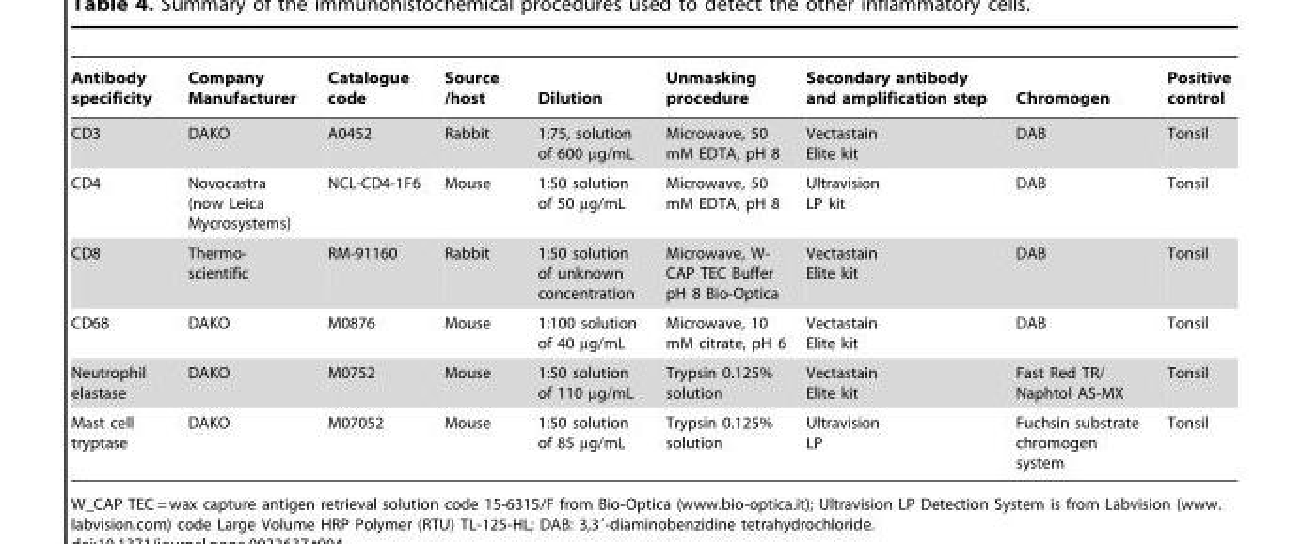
<table><thead><tr><td>Antibody specificity</td><td>Company Manufacturer</td><td>Catalogue code</td><td>Source /host</td><td>Dilution</td><td>Unmasking procedure</td><td>Secondary antibody and amplification step</td><td>Chromogen</td><td>Positive control</td></tr></thead><tbody><tr><td>CD3</td><td>DAKO</td><td>A0452</td><td>Rabbit</td><td>1:75, solution of 600 µg/mL</td><td>Microwave, 50 mM EDTA, pH 8</td><td>Vectastain Elite kit</td><td>DAB</td><td>Tonsil</td></tr><tr><td>CD4</td><td>Novocastra (now Leica Mycrosystems)</td><td>NCL-CD4-1F6</td><td>Mouse</td><td>1:50 solution of 50 µg/mL</td><td>Microwave, 50 mM EDTA, pH 8</td><td>Ultravision LP kit</td><td>DAB</td><td>Tonsil</td></tr><tr><td>CD8</td><td>Thermo- scientific</td><td>RM-91160</td><td>Rabbit</td><td>1:50 solution of unknown concentration</td><td>Microwave, W- CAP TEC Buffer pH 8 Bio-Optica</td><td>Vectastain Elite kit</td><td>DAB</td><td>Tonsil</td></tr><tr><td>CD68</td><td>DAKO</td><td>M0876</td><td>Mouse</td><td>1:100 solution of 40 µg/mL</td><td>Microwave, 10 mM citrate, pH 6</td><td>Vectastain Elite kit</td><td>DAB</td><td>Tonsil</td></tr><tr><td>Neutrophil elastase</td><td>DAKO</td><td>M0752</td><td>Mouse</td><td>1:50 solution of 110 µg/mL</td><td>Trypsin 0.125% solution</td><td>Vectastain Elite kit</td><td>Fast Red TR/ Naphtol AS-MX</td><td>Tonsil</td></tr><tr><td>Mast cell tryptase</td><td>DAKO</td><td>M07052</td><td>Mouse</td><td>1:50 solution of 85 µg/mL</td><td>Trypsin 0.125% solution</td><td>Ultravision LP</td><td>Fuchsin substrate chromogen system</td><td>Tonsil</td></tr></tbody></table>